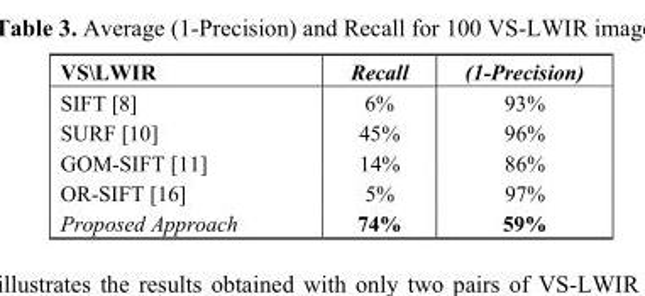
<table><thead><tr><td>VS\LWIR</td><td>Recall</td><td>(1-Precision)</td></tr></thead><tbody><tr><td>SIFT [8]</td><td>6%</td><td>93%</td></tr><tr><td>SURF [10]</td><td>45%</td><td>96%</td></tr><tr><td>GOM-SIFT [11]</td><td>14%</td><td>86%</td></tr><tr><td>OR-SIFT [16]</td><td>5%</td><td>97%</td></tr><tr><td>Proposed Approach</td><td>74%</td><td>59%</td></tr></tbody></table>